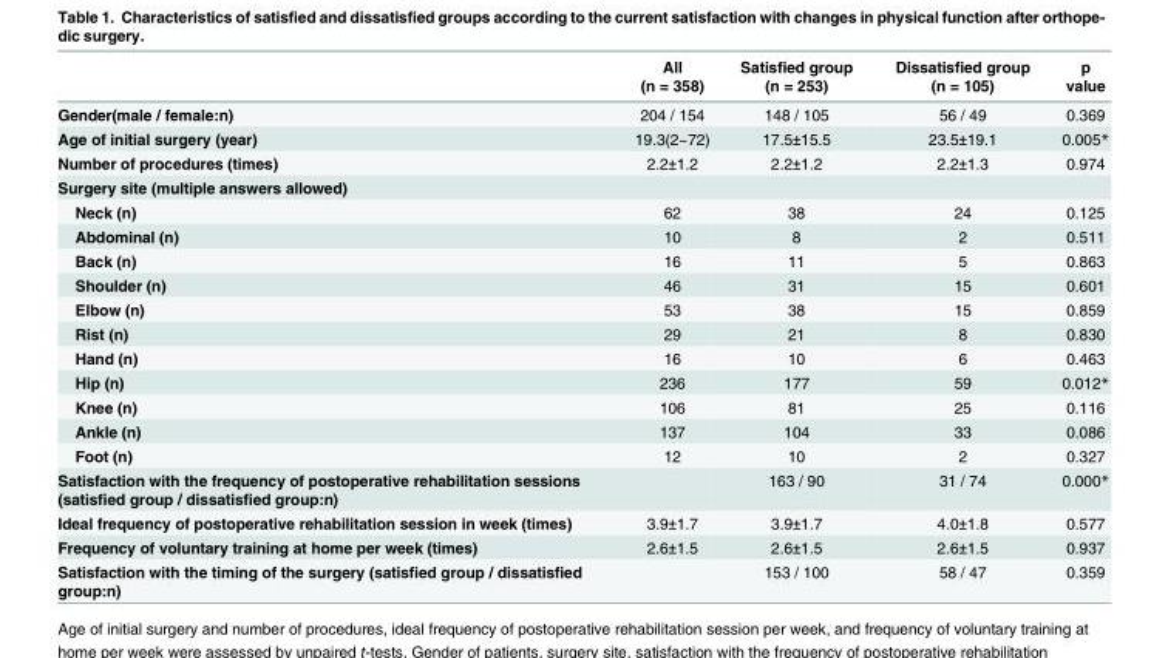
<table><thead><tr><td></td><td>All (n = 358)</td><td>Satisfied group (n = 253)</td><td>Dissatisfied group (n = 105)</td><td>p value</td></tr></thead><tbody><tr><td>Gender(male / female:n)</td><td>204 / 154</td><td>148 / 105</td><td>56 / 49</td><td>0.369</td></tr><tr><td>Age of initial surgery (year)</td><td>19.3(2~72)</td><td>17.5±15.5</td><td>23.5±19.1</td><td>0.005*</td></tr><tr><td>Number of procedures (times)</td><td>2.2±1.2</td><td>2.2±1.2</td><td>2.2±1.3</td><td>0.974</td></tr><tr><td colspan="5">Surgery site (multiple answers allowed)</td></tr><tr><td>Neck (n)</td><td>62</td><td>38</td><td>24</td><td>0.125</td></tr><tr><td>Abdominal (n)</td><td>10</td><td>8</td><td>2</td><td>0.511</td></tr><tr><td>Back (n)</td><td>16</td><td>11</td><td>5</td><td>0.863</td></tr><tr><td>Shoulder (n)</td><td>46</td><td>31</td><td>15</td><td>0.601</td></tr><tr><td>Elbow (n)</td><td>53</td><td>38</td><td>15</td><td>0.859</td></tr><tr><td>Rist (n)</td><td>29</td><td>21</td><td>8</td><td>0.830</td></tr><tr><td>Hand (n)</td><td>16</td><td>10</td><td>6</td><td>0.463</td></tr><tr><td>Hip (n)</td><td>236</td><td>177</td><td>59</td><td>0.012*</td></tr><tr><td>Knee (n)</td><td>106</td><td>81</td><td>25</td><td>0.116</td></tr><tr><td>Ankle (n)</td><td>137</td><td>104</td><td>33</td><td>0.086</td></tr><tr><td>Foot (n)</td><td>12</td><td>10</td><td>2</td><td>0.327</td></tr><tr><td>Satisfaction with the frequency of postoperative rehabilitation sessions (satisfied group / dissatisfied group:n)</td><td></td><td>163 / 90</td><td>31 / 74</td><td>0.000*</td></tr><tr><td>Ideal frequency of postoperative rehabilitation session in week (times)</td><td>3.9±1.7</td><td>3.9±1.7</td><td>4.0±1.8</td><td>0.577</td></tr><tr><td>Frequency of voluntary training at home per week (times)</td><td>2.6±1.5</td><td>2.6±1.5</td><td>2.6±1.5</td><td>0.937</td></tr><tr><td>Satisfaction with the timing of the surgery (satisfied group / dissatisfied group:n)</td><td></td><td>153 / 100</td><td>58 / 47</td><td>0.359</td></tr></tbody></table>